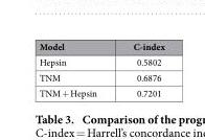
<table><thead><tr><td>Model</td><td>C-index</td></tr></thead><tbody><tr><td>Hepsin</td><td>0.5802</td></tr><tr><td>TNM</td><td>0.6876</td></tr><tr><td>TNM + Hepsin</td><td>0.7201</td></tr></tbody></table>